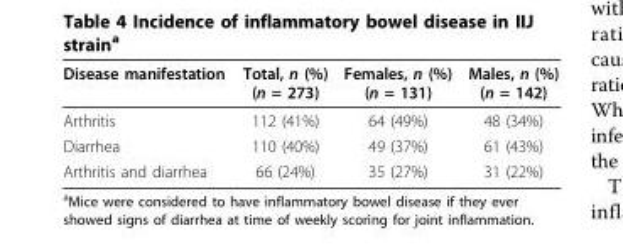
<table><thead><tr><td>Disease manifestation</td><td>Total, n (%) (n = 273)</td><td>Females, n (%) (n = 131)</td><td>Males, n (%) (n = 142)</td></tr></thead><tbody><tr><td>Arthritis</td><td>112 (41%)</td><td>64 (49%)</td><td>48 (34%)</td></tr><tr><td>Diarrhea</td><td>110 (40%)</td><td>49 (37%)</td><td>61 (43%)</td></tr><tr><td>Arthritis and diarrhea</td><td>66 (24%)</td><td>35 (27%)</td><td>31 (22%)</td></tr></tbody></table>